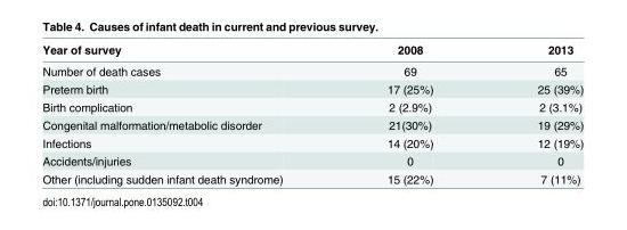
<table><thead><tr><td>Year of survey</td><td>2008</td><td>2013</td></tr></thead><tbody><tr><td>Number of death cases</td><td>69</td><td>65</td></tr><tr><td>Preterm birth</td><td>17 (25%)</td><td>25 (39%)</td></tr><tr><td>Birth complication</td><td>2 (2.9%)</td><td>2 (3.1%)</td></tr><tr><td>Congenital malformation/metabolic disorder</td><td>21(30%)</td><td>19 (29%)</td></tr><tr><td>Infections</td><td>14 (20%)</td><td>12 (19%)</td></tr><tr><td>Accidents/injuries</td><td>0</td><td>0</td></tr><tr><td>Other (including sudden infant death syndrome)</td><td>15 (22%)</td><td>7 (11%)</td></tr></tbody></table>